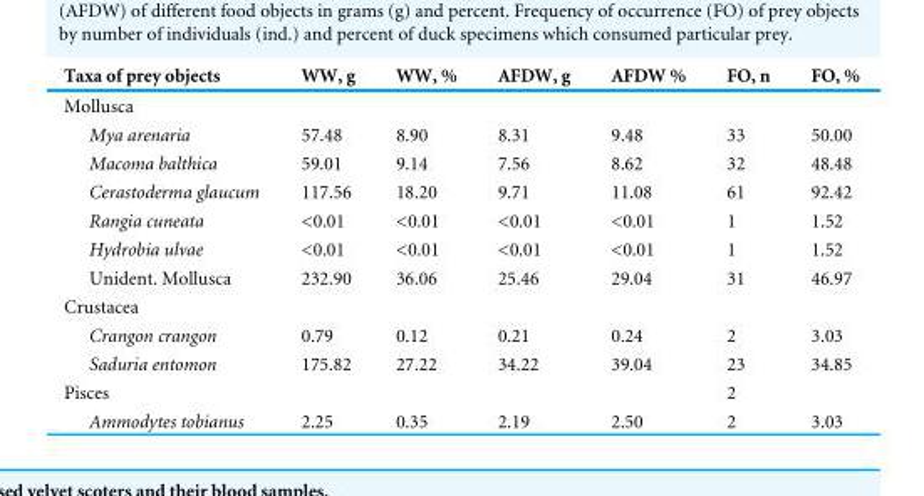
<table><thead><tr><td>Taxa of prey objects</td><td>WW, g</td><td>WW, %</td><td>AFDW, g</td><td>AFDW %</td><td>FO, n</td><td>FO, %</td></tr></thead><tbody><tr><td colspan="7">Mollusca</td></tr><tr><td>Mya arenaria</td><td>57.48</td><td>8.90</td><td>8.31</td><td>9.48</td><td>33</td><td>50.00</td></tr><tr><td>Macoma balthica</td><td>59.01</td><td>9.14</td><td>7.56</td><td>8.62</td><td>32</td><td>48.48</td></tr><tr><td>Cerastoderma glaucum</td><td>117.56</td><td>18.20</td><td>9.71</td><td>11.08</td><td>61</td><td>92.42</td></tr><tr><td>Rangia cuneata</td><td>&lt;0.01</td><td>&lt;0.01</td><td>&lt;0.01</td><td>&lt;0.01</td><td>1</td><td>1.52</td></tr><tr><td>Hydrobia ulvae</td><td>&lt;0.01</td><td>&lt;0.01</td><td>&lt;0.01</td><td>&lt;0.01</td><td>1</td><td>1.52</td></tr><tr><td>Unident. Mollusca</td><td>232.90</td><td>36.06</td><td>25.46</td><td>29.04</td><td>31</td><td>46.97</td></tr><tr><td colspan="7">Crustacea</td></tr><tr><td>Crangon crangon</td><td>0.79</td><td>0.12</td><td>0.21</td><td>0.24</td><td>2</td><td>3.03</td></tr><tr><td>Saduria entomon</td><td>175.82</td><td>27.22</td><td>34.22</td><td>39.04</td><td>23</td><td>34.85</td></tr><tr><td>Pisces</td><td></td><td></td><td></td><td></td><td>2</td><td></td></tr><tr><td>Ammodytes tobianus</td><td>2.25</td><td>0.35</td><td>2.19</td><td>2.50</td><td>2</td><td>3.03</td></tr></tbody></table>